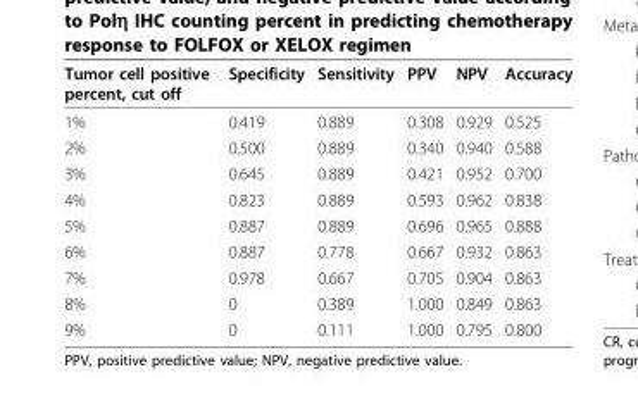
<table><thead><tr><td>Tumor cell positive percent, cut off</td><td>Specificity</td><td>Sensitivity</td><td>PPV</td><td>NPV</td><td>Accuracy</td></tr></thead><tbody><tr><td>1%</td><td>0.419</td><td>0.889</td><td>0.308</td><td>0.929</td><td>0.525</td></tr><tr><td>2%</td><td>0.500</td><td>0.889</td><td>0.340</td><td>0.940</td><td>0.588</td></tr><tr><td>3%</td><td>0.645</td><td>0.889</td><td>0.421</td><td>0.952</td><td>0.700</td></tr><tr><td>4%</td><td>0.823</td><td>0.889</td><td>0.593</td><td>0.962</td><td>0.838</td></tr><tr><td>5%</td><td>0.887</td><td>0.889</td><td>0.696</td><td>0.965</td><td>0.888</td></tr><tr><td>6%</td><td>0.887</td><td>0.778</td><td>0.667</td><td>0.932</td><td>0.863</td></tr><tr><td>7%</td><td>0.978</td><td>0.667</td><td>0.705</td><td>0.904</td><td>0.863</td></tr><tr><td>8%</td><td>0</td><td>0.389</td><td>1.000</td><td>0.849</td><td>0.863</td></tr><tr><td>9%</td><td>0</td><td>0.111</td><td>1.000</td><td>0.795</td><td>0.800</td></tr></tbody></table>